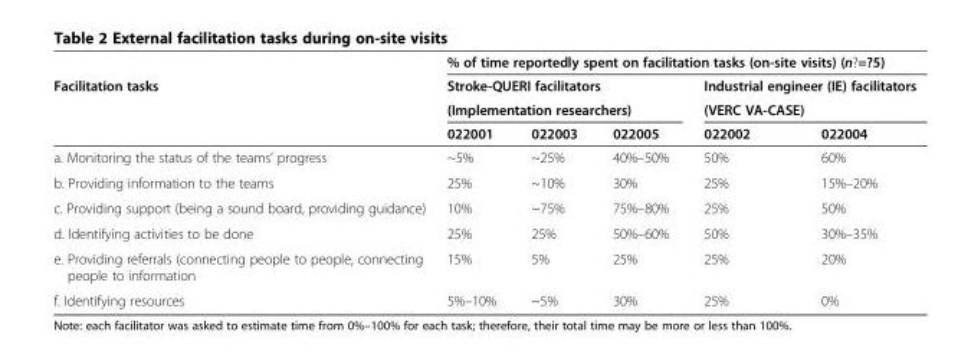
<table><thead><tr><td rowspan="4">Facilitation tasks</td><td colspan="5">% of time reportedly spent on facilitation tasks (on-site visits) (n?=?5)</td></tr><tr><td rowspan="2" colspan="3">Stroke-QUERI facilitators (Implementation researchers)</td><td rowspan="2" colspan="2">Industrial engineer (IE) facilitators (VERC VA-CASE)</td></tr><tr></tr><tr><td>022001</td><td>022003</td><td>022005</td><td>022002</td><td>022004</td></tr></thead><tbody><tr><td>a. Monitoring the status of the teams’ progress</td><td>~5%</td><td>~25%</td><td>40%–50%</td><td>50%</td><td>60%</td></tr><tr><td>b. Providing information to the teams</td><td>25%</td><td>~10%</td><td>30%</td><td>25%</td><td>15%–20%</td></tr><tr><td>c. Providing support (being a sound board, providing guidance)</td><td>10%</td><td>~75%</td><td>75%–80%</td><td>25%</td><td>50%</td></tr><tr><td>d. Identifying activities to be done</td><td>25%</td><td>25%</td><td>50%–60%</td><td>50%</td><td>30%–35%</td></tr><tr><td>e. Providing referrals (connecting people to people, connecting people to information</td><td>15%</td><td>5%</td><td>25%</td><td>25%</td><td>20%</td></tr><tr><td>f. Identifying resources</td><td>5%–10%</td><td>~5%</td><td>30%</td><td>25%</td><td>0%</td></tr></tbody></table>